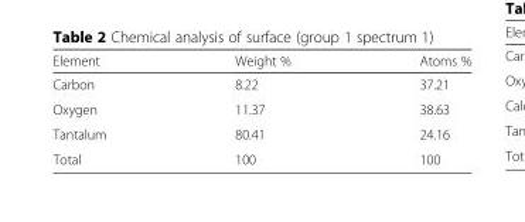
<table><thead><tr><td>Element</td><td>Weight %</td><td>Atoms %</td></tr></thead><tbody><tr><td>Carbon</td><td>8.22</td><td>37.21</td></tr><tr><td>Oxygen</td><td>11.37</td><td>38.63</td></tr><tr><td>Tantalum</td><td>80.41</td><td>24.16</td></tr><tr><td>Total</td><td>100</td><td>100</td></tr></tbody></table>